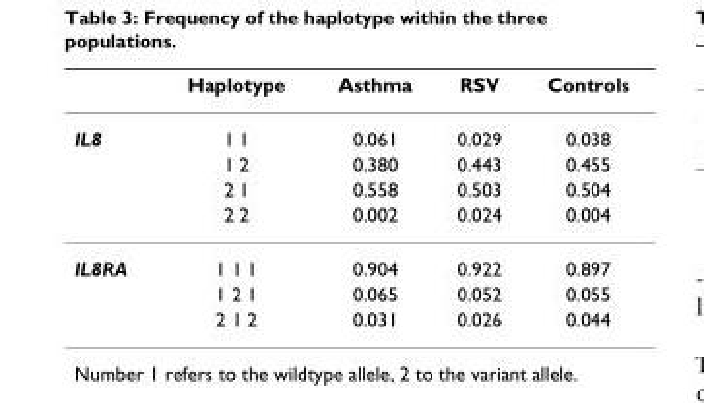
<table><thead><tr><td></td><td>Haplotype</td><td>Asthma</td><td>RSV</td><td>Controls</td></tr></thead><tbody><tr><td rowspan="4">IL8</td><td>1 1</td><td>0.061</td><td>0.029</td><td>0.038</td></tr><tr><td>1 2</td><td>0.380</td><td>0.443</td><td>0.455</td></tr><tr><td>2 1</td><td>0.558</td><td>0.503</td><td>0.504</td></tr><tr><td>2 2</td><td>0.002</td><td>0.024</td><td>0.004</td></tr><tr><td rowspan="3">IL8RA</td><td>1 1 1</td><td>0.904</td><td>0.922</td><td>0.897</td></tr><tr><td>1 2 1</td><td>0.065</td><td>0.052</td><td>0.055</td></tr><tr><td>2 1 2</td><td>0.031</td><td>0.026</td><td>0.044</td></tr></tbody></table>